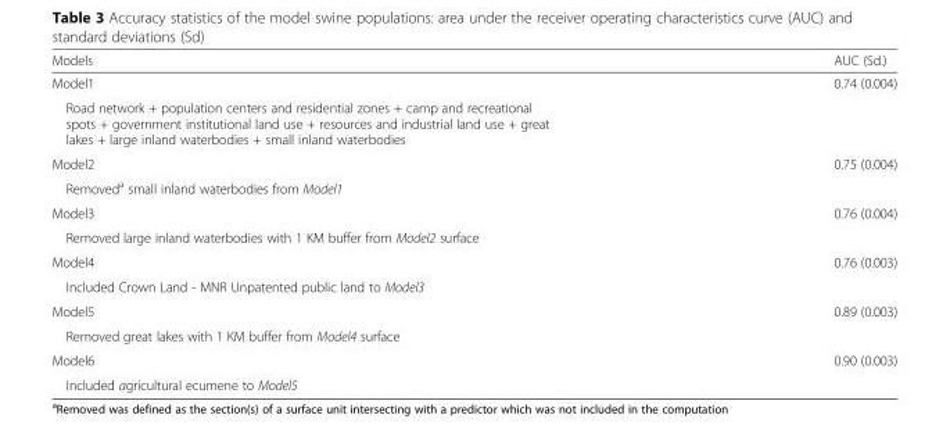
<table><thead><tr><td>Models</td><td>AUC (Sd.)</td></tr></thead><tbody><tr><td>Model1</td><td rowspan="2">0.74 (0.004)</td></tr><tr><td>Road network + population centers and residential zones + camp and recreational spots + government institutional land use + resources and industrial land use + great lakes + large inland waterbodies + small inland waterbodies</td></tr><tr><td>Model2</td><td rowspan="2">0.75 (0.004)</td></tr><tr><td>Removed<sup>a</sup> small inland waterbodies from Model1</td></tr><tr><td>Model3</td><td rowspan="2">0.76 (0.004)</td></tr><tr><td>Removed large inland waterbodies with 1 KM buffer from Model2 surface</td></tr><tr><td>Model4</td><td rowspan="2">0.76 (0.003)</td></tr><tr><td>Included Crown Land - MNR Unpatented public land to Model3</td></tr><tr><td>Model5</td><td rowspan="2">0.89 (0.003)</td></tr><tr><td>Removed great lakes with 1 KM buffer from Model4 surface</td></tr><tr><td>Model6</td><td rowspan="2">0.90 (0.003)</td></tr><tr><td>Included agricultural ecumene to Model5</td></tr></tbody></table>